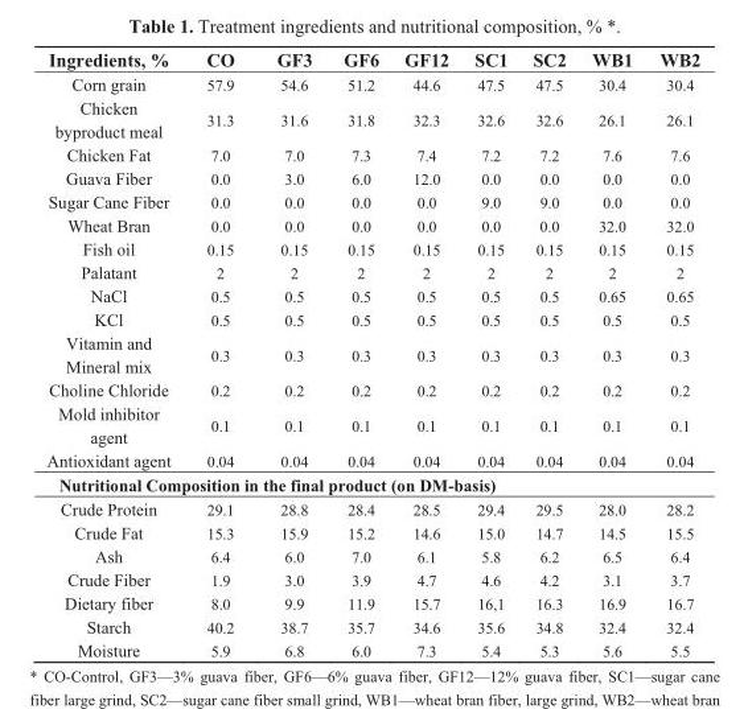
<table><thead><tr><td>Ingredients, %</td><td>CO</td><td>GF3</td><td>GF6</td><td>GF12</td><td>SC1</td><td>SC2</td><td>WB1</td><td>WB2</td></tr></thead><tbody><tr><td>Corn grain</td><td>57.9</td><td>54.6</td><td>51.2</td><td>44.6</td><td>47.5</td><td>47.5</td><td>30.4</td><td>30.4</td></tr><tr><td>Chicken byproduct meal</td><td>31.3</td><td>31.6</td><td>31.8</td><td>32.3</td><td>32.6</td><td>32.6</td><td>26.1</td><td>26.1</td></tr><tr><td>Chicken Fat</td><td>7.0</td><td>7.0</td><td>7.3</td><td>7.4</td><td>7.2</td><td>7.2</td><td>7.6</td><td>7.6</td></tr><tr><td>Guava Fiber</td><td>0.0</td><td>3.0</td><td>6.0</td><td>12.0</td><td>0.0</td><td>0.0</td><td>0.0</td><td>0.0</td></tr><tr><td>Sugar Cane Fiber</td><td>0.0</td><td>0.0</td><td>0.0</td><td>0.0</td><td>9.0</td><td>9.0</td><td>0.0</td><td>0.0</td></tr><tr><td>Wheat Bran</td><td>0.0</td><td>0.0</td><td>0.0</td><td>0.0</td><td>0.0</td><td>0.0</td><td>32.0</td><td>32.0</td></tr><tr><td>Fish oil</td><td>0.15</td><td>0.15</td><td>0.15</td><td>0.15</td><td>0.15</td><td>0.15</td><td>0.15</td><td>0.15</td></tr><tr><td>Palatant</td><td>2</td><td>2</td><td>2</td><td>2</td><td>2</td><td>2</td><td>2</td><td>2</td></tr><tr><td>NaCl</td><td>0.5</td><td>0.5</td><td>0.5</td><td>0.5</td><td>0.5</td><td>0.5</td><td>0.65</td><td>0.65</td></tr><tr><td>KCl</td><td>0.5</td><td>0.5</td><td>0.5</td><td>0.5</td><td>0.5</td><td>0.5</td><td>0.5</td><td>0.5</td></tr><tr><td>Vitamin and Mineral mix</td><td>0.3</td><td>0.3</td><td>0.3</td><td>0.3</td><td>0.3</td><td>0.3</td><td>0.3</td><td>0.3</td></tr><tr><td>Choline Chloride</td><td>0.2</td><td>0.2</td><td>0.2</td><td>0.2</td><td>0.2</td><td>0.2</td><td>0.2</td><td>0.2</td></tr><tr><td>Mold inhibitor agent</td><td>0.1</td><td>0.1</td><td>0.1</td><td>0.1</td><td>0.1</td><td>0.1</td><td>0.1</td><td>0.1</td></tr><tr><td>Antioxidant agent</td><td>0.04</td><td>0.04</td><td>0.04</td><td>0.04</td><td>0.04</td><td>0.04</td><td>0.04</td><td>0.04</td></tr><tr><td colspan="9">Nutritional Composition in the final product (on DM-basis)</td></tr><tr><td>Crude Protein</td><td>29.1</td><td>28.8</td><td>28.4</td><td>28.5</td><td>29.4</td><td>29.5</td><td>28.0</td><td>28.2</td></tr><tr><td>Crude Fat</td><td>15.3</td><td>15.9</td><td>15.2</td><td>14.6</td><td>15.0</td><td>14.7</td><td>14.5</td><td>15.5</td></tr><tr><td>Ash</td><td>6.4</td><td>6.0</td><td>7.0</td><td>6.1</td><td>5.8</td><td>6.2</td><td>6.5</td><td>6.4</td></tr><tr><td>Crude Fiber</td><td>1.9</td><td>3.0</td><td>3.9</td><td>4.7</td><td>4.6</td><td>4.2</td><td>3.1</td><td>3.7</td></tr><tr><td>Dietary fiber</td><td>8.0</td><td>9.9</td><td>11.9</td><td>15.7</td><td>16,1</td><td>16.3</td><td>16.9</td><td>16.7</td></tr><tr><td>Starch</td><td>40.2</td><td>38.7</td><td>35.7</td><td>34.6</td><td>35.6</td><td>34.8</td><td>32.4</td><td>32.4</td></tr><tr><td>Moisture</td><td>5.9</td><td>6.8</td><td>6.0</td><td>7.3</td><td>5.4</td><td>5.3</td><td>5.6</td><td>5.5</td></tr></tbody></table>